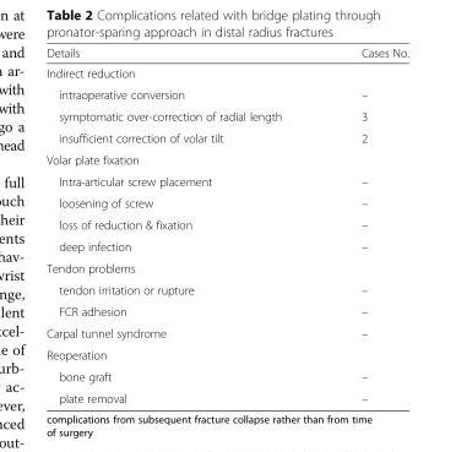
<table><thead><tr><td>Details</td><td>Cases No.</td></tr></thead><tbody><tr><td colspan="2">Indirect reduction</td></tr><tr><td>intraoperative conversion</td><td>–</td></tr><tr><td>symptomatic over-correction of radial length</td><td>3</td></tr><tr><td>insufficient correction of volar tilt</td><td>2</td></tr><tr><td colspan="2">Volar plate fixation</td></tr><tr><td>Intra-articular screw placement</td><td>–</td></tr><tr><td>loosening of screw</td><td>–</td></tr><tr><td>loss of reduction &amp; fixation</td><td>–</td></tr><tr><td>deep infection</td><td>–</td></tr><tr><td colspan="2">Tendon problems</td></tr><tr><td>tendon irritation or rupture</td><td>–</td></tr><tr><td>FCR adhesion</td><td>–</td></tr><tr><td>Carpal tunnel syndrome</td><td>–</td></tr><tr><td colspan="2">Reoperation</td></tr><tr><td>bone graft</td><td>–</td></tr><tr><td>plate removal</td><td>–</td></tr></tbody></table>